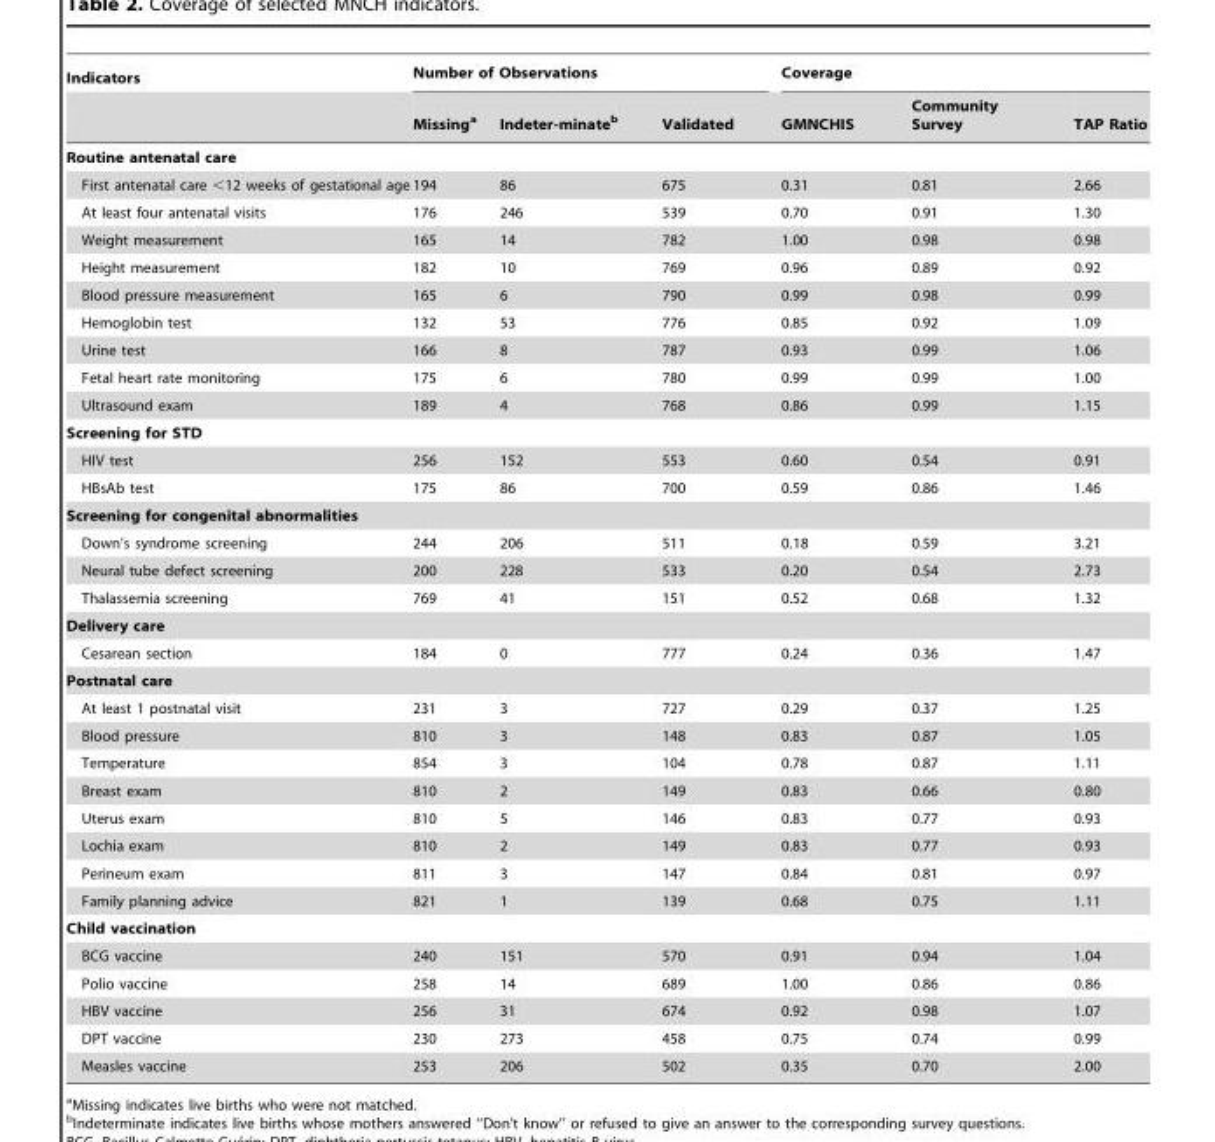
<table><thead><tr><td rowspan="2">Indicators</td><td colspan="3">Number of Observations</td><td colspan="3">Coverage</td></tr><tr><td>Missing<sup>a</sup></td><td>Indeter-minate<sup>b</sup></td><td>Validated</td><td>GMNCHIS</td><td>Community Survey</td><td>TAP Ratio</td></tr></thead><tbody><tr><td colspan="7">Routine antenatal care</td></tr><tr><td>First antenatal care &lt;12 weeks of gestational age</td><td>194</td><td>86</td><td>675</td><td>0.31</td><td>0.81</td><td>2.66</td></tr><tr><td>At least four antenatal visits</td><td>176</td><td>246</td><td>539</td><td>0.70</td><td>0.91</td><td>1.30</td></tr><tr><td>Weight measurement</td><td>165</td><td>14</td><td>782</td><td>1.00</td><td>0.98</td><td>0.98</td></tr><tr><td>Height measurement</td><td>182</td><td>10</td><td>769</td><td>0.96</td><td>0.89</td><td>0.92</td></tr><tr><td>Blood pressure measurement</td><td>165</td><td>6</td><td>790</td><td>0.99</td><td>0.98</td><td>0.99</td></tr><tr><td>Hemoglobin test</td><td>132</td><td>53</td><td>776</td><td>0.85</td><td>0.92</td><td>1.09</td></tr><tr><td>Urine test</td><td>166</td><td>8</td><td>787</td><td>0.93</td><td>0.99</td><td>1.06</td></tr><tr><td>Fetal heart rate monitoring</td><td>175</td><td>6</td><td>780</td><td>0.99</td><td>0.99</td><td>1.00</td></tr><tr><td>Ultrasound exam</td><td>189</td><td>4</td><td>768</td><td>0.86</td><td>0.99</td><td>1.15</td></tr><tr><td colspan="7">Screening for STD</td></tr><tr><td>HIV test</td><td>256</td><td>152</td><td>553</td><td>0.60</td><td>0.54</td><td>0.91</td></tr><tr><td>HBsAb test</td><td>175</td><td>86</td><td>700</td><td>0.59</td><td>0.86</td><td>1.46</td></tr><tr><td colspan="7">Screening for congenital abnormalities</td></tr><tr><td>Down’s syndrome screening</td><td>244</td><td>206</td><td>511</td><td>0.18</td><td>0.59</td><td>3.21</td></tr><tr><td>Neural tube defect screening</td><td>200</td><td>228</td><td>533</td><td>0.20</td><td>0.54</td><td>2.73</td></tr><tr><td>Thalassemia screening</td><td>769</td><td>41</td><td>151</td><td>0.52</td><td>0.68</td><td>1.32</td></tr><tr><td colspan="7">Delivery care</td></tr><tr><td>Cesarean section</td><td>184</td><td>0</td><td>777</td><td>0.24</td><td>0.36</td><td>1.47</td></tr><tr><td colspan="7">Postnatal care</td></tr><tr><td>At least 1 postnatal visit</td><td>231</td><td>3</td><td>727</td><td>0.29</td><td>0.37</td><td>1.25</td></tr><tr><td>Blood pressure</td><td>810</td><td>3</td><td>148</td><td>0.83</td><td>0.87</td><td>1.05</td></tr><tr><td>Temperature</td><td>854</td><td>3</td><td>104</td><td>0.78</td><td>0.87</td><td>1.11</td></tr><tr><td>Breast exam</td><td>810</td><td>2</td><td>149</td><td>0.83</td><td>0.66</td><td>0.80</td></tr><tr><td>Uterus exam</td><td>810</td><td>5</td><td>146</td><td>0.83</td><td>0.77</td><td>0.93</td></tr><tr><td>Lochia exam</td><td>810</td><td>2</td><td>149</td><td>0.83</td><td>0.77</td><td>0.93</td></tr><tr><td>Perineum exam</td><td>811</td><td>3</td><td>147</td><td>0.84</td><td>0.81</td><td>0.97</td></tr><tr><td>Family planning advice</td><td>821</td><td>1</td><td>139</td><td>0.68</td><td>0.75</td><td>1.11</td></tr><tr><td colspan="7">Child vaccination</td></tr><tr><td>BCG vaccine</td><td>240</td><td>151</td><td>570</td><td>0.91</td><td>0.94</td><td>1.04</td></tr><tr><td>Polio vaccine</td><td>258</td><td>14</td><td>689</td><td>1.00</td><td>0.86</td><td>0.86</td></tr><tr><td>HBV vaccine</td><td>256</td><td>31</td><td>674</td><td>0.92</td><td>0.98</td><td>1.07</td></tr><tr><td>DPT vaccine</td><td>230</td><td>273</td><td>458</td><td>0.75</td><td>0.74</td><td>0.99</td></tr><tr><td>Measles vaccine</td><td>253</td><td>206</td><td>502</td><td>0.35</td><td>0.70</td><td>2.00</td></tr></tbody></table>